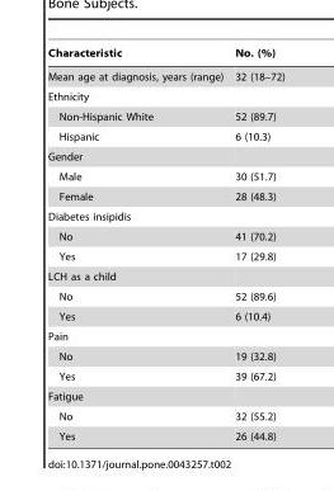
<table><thead><tr><td>Characteristic</td><td>No. (%)</td></tr></thead><tbody><tr><td>Mean age at diagnosis, years (range)</td><td>32 (18–72)</td></tr><tr><td colspan="2">Ethnicity</td></tr><tr><td>Non-Hispanic White</td><td>52 (89.7)</td></tr><tr><td>Hispanic</td><td>6 (10.3)</td></tr><tr><td colspan="2">Gender</td></tr><tr><td>Male</td><td>30 (51.7)</td></tr><tr><td>Female</td><td>28 (48.3)</td></tr><tr><td colspan="2">Diabetes insipidis</td></tr><tr><td>No</td><td>41 (70.2)</td></tr><tr><td>Yes</td><td>17 (29.8)</td></tr><tr><td colspan="2">LCH as a child</td></tr><tr><td>No</td><td>52 (89.6)</td></tr><tr><td>Yes</td><td>6 (10.4)</td></tr><tr><td colspan="2">Pain</td></tr><tr><td>No</td><td>19 (32.8)</td></tr><tr><td>Yes</td><td>39 (67.2)</td></tr><tr><td colspan="2">Fatigue</td></tr><tr><td>No</td><td>32 (55.2)</td></tr><tr><td>Yes</td><td>26 (44.8)</td></tr></tbody></table>